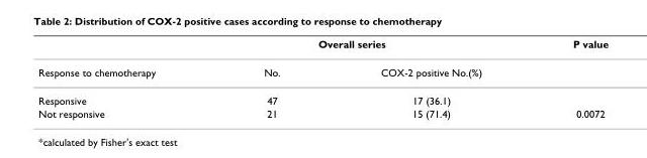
<table><thead><tr><td rowspan="2">Response to chemotherapy</td><td colspan="2">Overall series</td><td rowspan="2">P value</td></tr><tr><td>No.</td><td>COX-2 positive No.(%)</td></tr></thead><tbody><tr><td>Responsive</td><td>47</td><td>17 (36.1)</td><td></td></tr><tr><td>Not responsive</td><td>21</td><td>15 (71.4)</td><td>0.0072</td></tr></tbody></table>